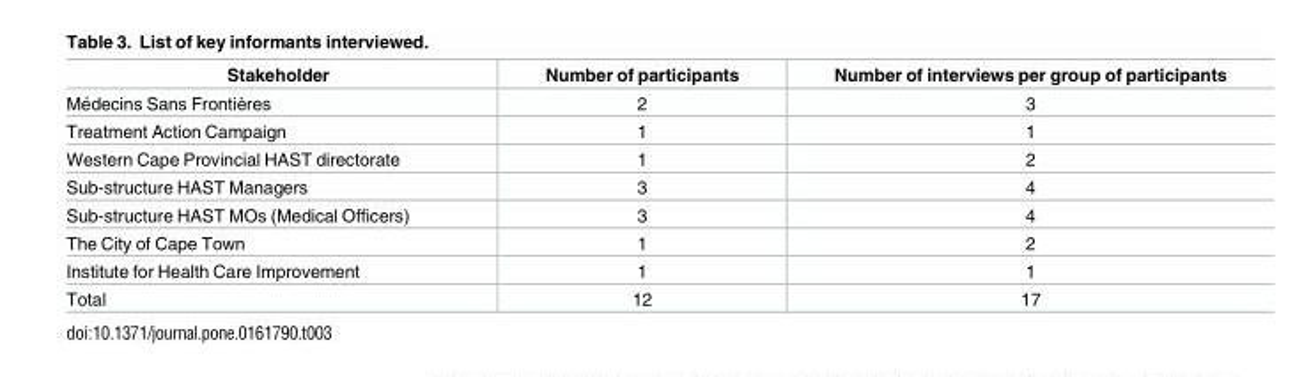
<table><thead><tr><td>Stakeholder</td><td>Number of participants</td><td>Number of interviews per group of participants</td></tr></thead><tbody><tr><td>Me´decins Sans Frontières</td><td>2</td><td>3</td></tr><tr><td>Treatment Action Campaign</td><td>1</td><td>1</td></tr><tr><td>Western Cape Provincial HAST directorate</td><td>1</td><td>2</td></tr><tr><td>Sub-structure HAST Managers</td><td>3</td><td>4</td></tr><tr><td>Sub-structure HAST MOs (Medical Officers)</td><td>3</td><td>4</td></tr><tr><td>The City of Cape Town</td><td>1</td><td>2</td></tr><tr><td>Institute for Health Care Improvement</td><td>1</td><td>1</td></tr><tr><td>Total</td><td>12</td><td>17</td></tr></tbody></table>